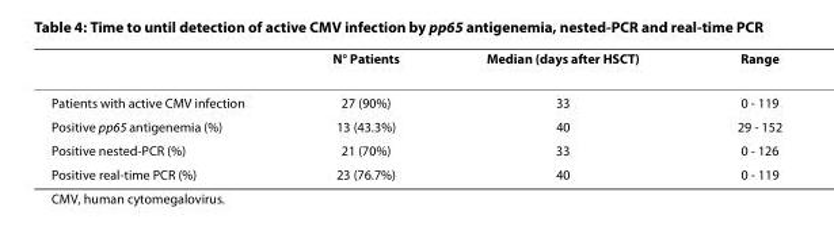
<table><thead><tr><td></td><td>N° Patients</td><td>Median (days after HSCT)</td><td>Range</td></tr></thead><tbody><tr><td>Patients with active CMV infection</td><td>27 (90%)</td><td>33</td><td>0 - 119</td></tr><tr><td>Positive pp65 antigenemia (%)</td><td>13 (43.3%)</td><td>40</td><td>29 - 152</td></tr><tr><td>Positive nested-PCR (%)</td><td>21 (70%)</td><td>33</td><td>0 - 126</td></tr><tr><td>Positive real-time PCR (%)</td><td>23 (76.7%)</td><td>40</td><td>0 - 119</td></tr></tbody></table>